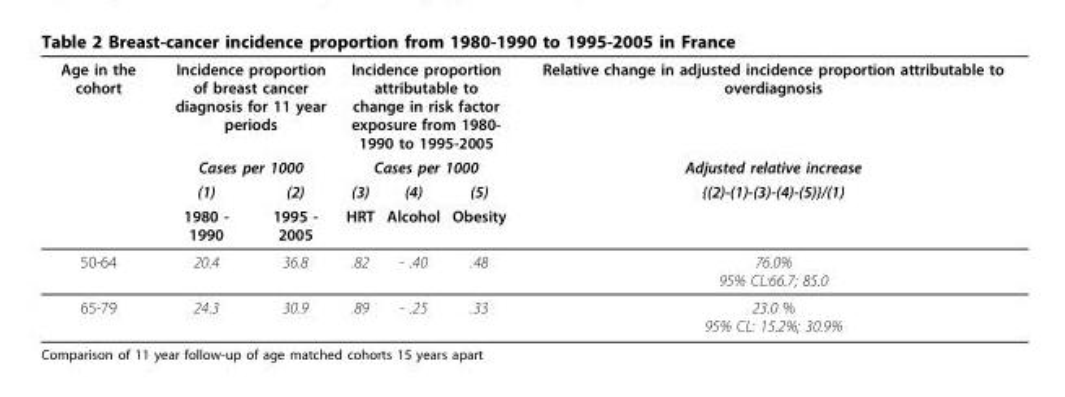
<table><thead><tr><td rowspan="4">Age in the cohort</td><td rowspan="2" colspan="2">Incidence proportion of breast cancer diagnosis for 11 year periods Cases per 1000</td><td rowspan="2" colspan="3">Incidence proportion attributable to change in risk factor exposure from 1980- 1990 to 1995-2005 Cases per 1000</td><td rowspan="4">Relative change in adjusted incidence proportion attributable to overdiagnosis Adjusted relative increase {(2)-(1)-(3)-(4)-(5)}/(1)</td></tr><tr></tr><tr><td rowspan="2">(1) 1980 - 1990</td><td rowspan="2">(2) 1995 - 2005</td><td rowspan="2">(3) HRT</td><td rowspan="2">(4) Alcohol</td><td rowspan="2">(5) Obesity</td></tr><tr></tr></thead><tbody><tr><td>50-64</td><td>20.4</td><td>36.8</td><td>.82</td><td>- .40</td><td>.48</td><td>76.0% 95% CL:66.7; 85.0</td></tr><tr><td>65-79</td><td>24.3</td><td>30.9</td><td>.89</td><td>- .25</td><td>.33</td><td>23.0 % 95% CL: 15.2%; 30.9%</td></tr></tbody></table>